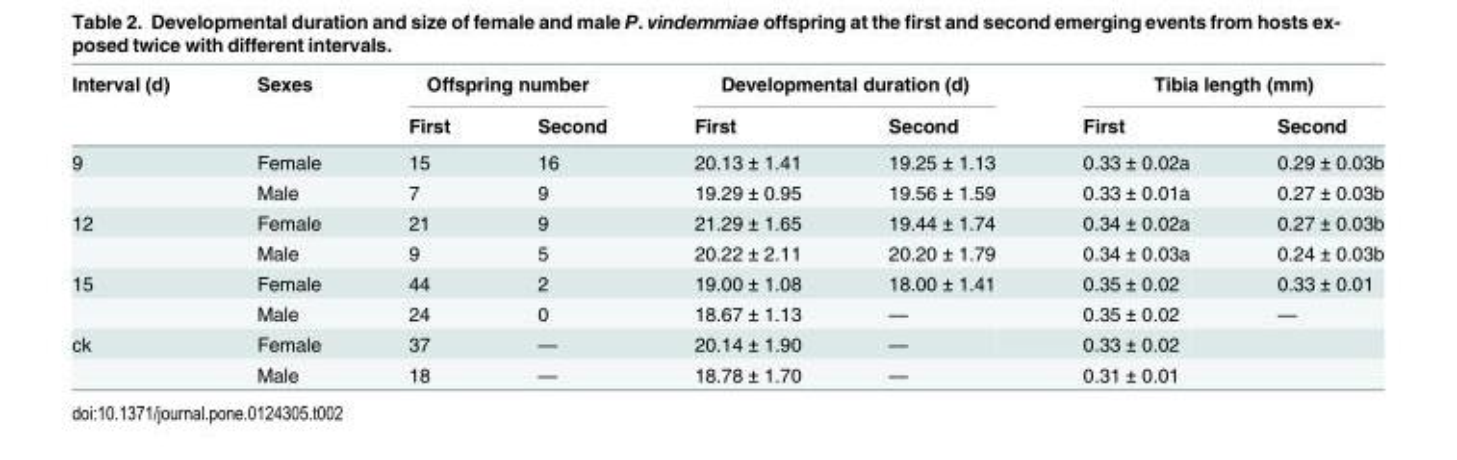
<table><thead><tr><td rowspan="2">Interval (d)</td><td rowspan="2">Sexes</td><td colspan="2">Offspring number</td><td colspan="2">Developmental duration (d)</td><td colspan="2">Tibia length (mm)</td></tr><tr><td>First</td><td>Second</td><td>First</td><td>Second</td><td>First</td><td>Second</td></tr></thead><tbody><tr><td rowspan="2">9</td><td>Female</td><td>15</td><td>16</td><td>20.13 ± 1.41</td><td>19.25 ± 1.13</td><td>0.33 ± 0.02a</td><td>0.29 ± 0.03b</td></tr><tr><td>Male</td><td>7</td><td>9</td><td>19.29 ± 0.95</td><td>19.56 ± 1.59</td><td>0.33 ± 0.01a</td><td>0.27 ± 0.03b</td></tr><tr><td rowspan="2">12</td><td>Female</td><td>21</td><td>9</td><td>21.29 ± 1.65</td><td>19.44 ± 1.74</td><td>0.34 ± 0.02a</td><td>0.27 ± 0.03b</td></tr><tr><td>Male</td><td>9</td><td>5</td><td>20.22 ± 2.11</td><td>20.20 ± 1.79</td><td>0.34 ± 0.03a</td><td>0.24 ± 0.03b</td></tr><tr><td rowspan="2">15</td><td>Female</td><td>44</td><td>2</td><td>19.00 ± 1.08</td><td>18.00 ± 1.41</td><td>0.35 ± 0.02</td><td>0.33 ± 0.01</td></tr><tr><td>Male</td><td>24</td><td>0</td><td>18.67 ± 1.13</td><td>—</td><td>0.35 ± 0.02</td><td>—</td></tr><tr><td rowspan="2">ck</td><td>Female</td><td>37</td><td>—</td><td>20.14 ± 1.90</td><td>—</td><td>0.33 ± 0.02</td><td></td></tr><tr><td>Male</td><td>18</td><td>—</td><td>18.78 ± 1.70</td><td>—</td><td>0.31 ± 0.01</td><td></td></tr></tbody></table>